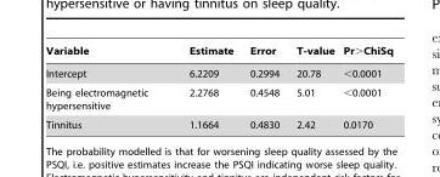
<table><thead><tr><td>Variable</td><td>Estimate</td><td>Error</td><td>T-value</td><td>Pr&gt;ChiSq</td></tr></thead><tbody><tr><td>Intercept</td><td>6.2209</td><td>0.2994</td><td>20.78</td><td>&lt;0.0001</td></tr><tr><td>Being electromagnetic hypersensitive</td><td>2.2768</td><td>0.4548</td><td>5.01</td><td>&lt;0.0001</td></tr><tr><td>Tinnitus</td><td>1.1664</td><td>0.4830</td><td>2.42</td><td>0.0170</td></tr></tbody></table>